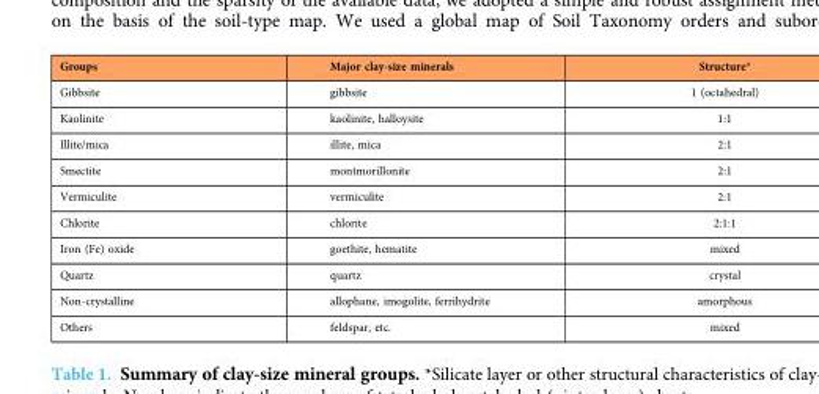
<table><thead><tr><td>Groups</td><td>Major clay-size minerals</td><td>Structure*</td></tr></thead><tbody><tr><td>Gibbsite</td><td>gibbsite</td><td>1 (octahedral)</td></tr><tr><td>Kaolinite</td><td>kaolinite, halloysite</td><td>1:1</td></tr><tr><td>Illite/mica</td><td>illite, mica</td><td>2:1</td></tr><tr><td>Smectite</td><td>montmorillonite</td><td>2:1</td></tr><tr><td>Vermiculite</td><td>vermiculite</td><td>2:1</td></tr><tr><td>Chlorite</td><td>chlorite</td><td>2:1:1</td></tr><tr><td>Iron (Fe) oxide</td><td>goethite, hematite</td><td>mixed</td></tr><tr><td>Quartz</td><td>quartz</td><td>crystal</td></tr><tr><td>Non-crystalline</td><td>allophane, imogolite, ferrihydrite</td><td>amorphous</td></tr><tr><td>Others</td><td>feldspar, etc.</td><td>mixed</td></tr></tbody></table>